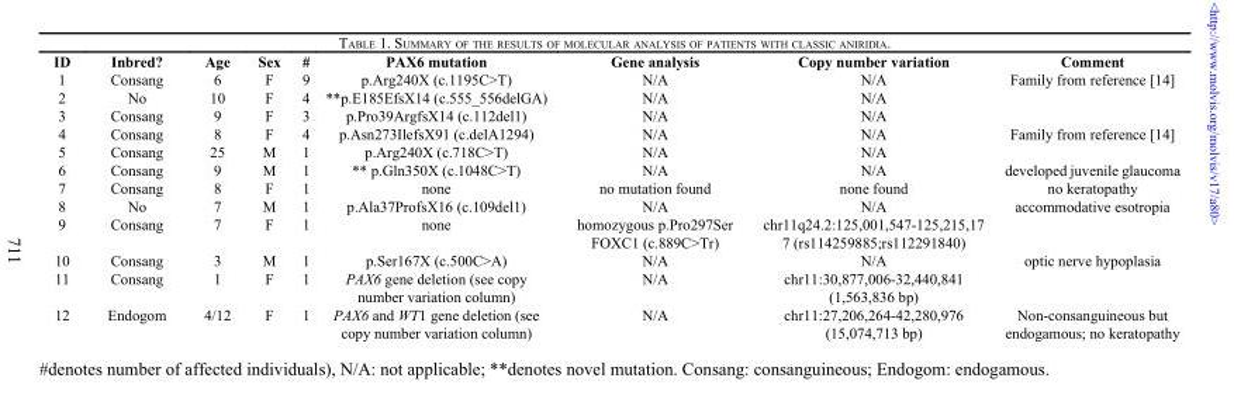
<table><thead><tr><td>ID</td><td>Inbred?</td><td>Age</td><td>Sex</td><td>#</td><td>PAX6 mutation</td><td>Gene analysis</td><td>Copy number variation</td><td>Comment</td></tr></thead><tbody><tr><td>1</td><td>Consang</td><td>6</td><td>F</td><td>9</td><td>p.Arg240X (c.1195C&gt;T)</td><td>N/A</td><td>N/A</td><td>Family from reference [14]</td></tr><tr><td>2</td><td>No</td><td>10</td><td>F</td><td>4</td><td>**p.E185EfsX14 (c.555_556delGA)</td><td>N/A</td><td>N/A</td><td></td></tr><tr><td>3</td><td>Consang</td><td>9</td><td>F</td><td>3</td><td>p.Pro39ArgfsX14 (c.112del1)</td><td>N/A</td><td>N/A</td><td></td></tr><tr><td>4</td><td>Consang</td><td>8</td><td>F</td><td>4</td><td>p.Asn273IlefsX91 (c.delA1294)</td><td>N/A</td><td>N/A</td><td>Family from reference [14]</td></tr><tr><td>5</td><td>Consang</td><td>25</td><td>M</td><td>1</td><td>p.Arg240X (c.718C&gt;T)</td><td>N/A</td><td>N/A</td><td></td></tr><tr><td>6</td><td>Consang</td><td>9</td><td>M</td><td>1</td><td>** p.Gln350X (c.1048C&gt;T)</td><td>N/A</td><td>N/A</td><td>developed juvenile glaucoma</td></tr><tr><td>7</td><td>Consang</td><td>8</td><td>F</td><td>1</td><td>none</td><td>no mutation found</td><td>none found</td><td>no keratopathy</td></tr><tr><td>8</td><td>No</td><td>7</td><td>M</td><td>1</td><td>p.Ala37ProfsX16 (c.109del1)</td><td>N/A</td><td>N/A</td><td>accommodative esotropia</td></tr><tr><td>9</td><td>Consang</td><td>7</td><td>F</td><td>1</td><td>none</td><td>homozygous p.Pro297Ser FOXC1 (c.889C&gt;Tr)</td><td>chr11q24.2:125,001,547-125,215,17 7 (rs114259885;rs112291840)</td><td></td></tr><tr><td>10</td><td>Consang</td><td>3</td><td>M</td><td>1</td><td>p.Ser167X (c.500C&gt;A)</td><td>N/A</td><td>N/A</td><td>optic nerve hypoplasia</td></tr><tr><td>11</td><td>Consang</td><td>1</td><td>F</td><td>1</td><td>PAX6 gene deletion (see copy number variation column)</td><td>N/A</td><td>chr11:30,877,006-32,440,841 (1,563,836 bp)</td><td></td></tr><tr><td>12</td><td>Endogom</td><td>4/12</td><td>F</td><td>1</td><td>PAX6 and WT1 gene deletion (see copy number variation column)</td><td>N/A</td><td>chr11:27,206,264-42,280,976 (15,074,713 bp)</td><td>Non-consanguineous but endogamous; no keratopathy</td></tr></tbody></table>